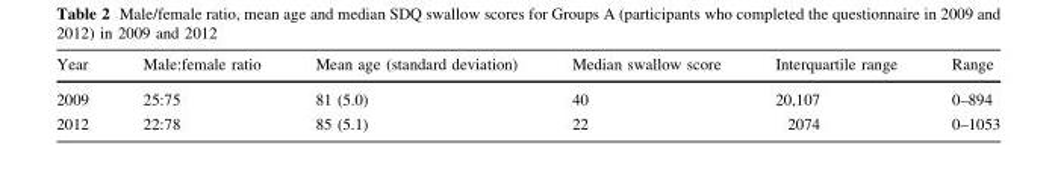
<table><thead><tr><td>Year</td><td>Male:female ratio</td><td>Mean age (standard deviation)</td><td>Median swallow score</td><td>Interquartile range</td><td>Range</td></tr></thead><tbody><tr><td>2009</td><td>25:75</td><td>81 (5.0)</td><td>40</td><td>20,107</td><td>0–894</td></tr><tr><td>2012</td><td>22:78</td><td>85 (5.1)</td><td>22</td><td>2074</td><td>0–1053</td></tr></tbody></table>